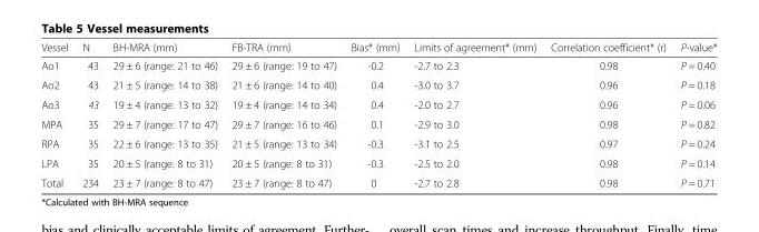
<table><thead><tr><td>Vessel</td><td>N</td><td>BH-MRA (mm)</td><td>FB-TRA (mm)</td><td>Bias* (mm)</td><td>Limits of agreement* (mm)</td><td>Correlation coefficient* (r)</td><td>P-value*</td></tr></thead><tbody><tr><td>Ao1</td><td>43</td><td>29 ± 6 (range: 21 to 46)</td><td>29 ± 6 (range: 19 to 47)</td><td>-0.2</td><td>-2.7 to 2.3</td><td>0.98</td><td>P = 0.40</td></tr><tr><td>Ao2</td><td>43</td><td>21 ± 5 (range: 14 to 38)</td><td>21 ± 6 (range: 14 to 40)</td><td>0.4</td><td>-3.0 to 3.7</td><td>0.96</td><td>P = 0.18</td></tr><tr><td>Ao3</td><td>43</td><td>19 ± 4 (range: 13 to 32)</td><td>19 ± 4 (range: 14 to 34)</td><td>0.4</td><td>-2.0 to 2.7</td><td>0.96</td><td>P = 0.06</td></tr><tr><td>MPA</td><td>35</td><td>29 ± 7 (range: 17 to 47)</td><td>29 ± 7 (range: 16 to 46)</td><td>0.1</td><td>-2.9 to 3.0</td><td>0.98</td><td>P = 0.82</td></tr><tr><td>RPA</td><td>35</td><td>22 ± 6 (range: 13 to 35)</td><td>21 ± 5 (range: 13 to 34)</td><td>-0.3</td><td>-3.1 to 2.5</td><td>0.97</td><td>P = 0.24</td></tr><tr><td>LPA</td><td>35</td><td>20 ± 5 (range: 8 to 31)</td><td>20 ± 5 (range: 8 to 31)</td><td>-0.3</td><td>-2.5 to 2.0</td><td>0.98</td><td>P = 0.14</td></tr><tr><td>Total</td><td>234</td><td>23 ± 7 (range: 8 to 47)</td><td>23 ± 7 (range: 8 to 47)</td><td>0</td><td>-2.7 to 2.8</td><td>0.98</td><td>P = 0.71</td></tr></tbody></table>